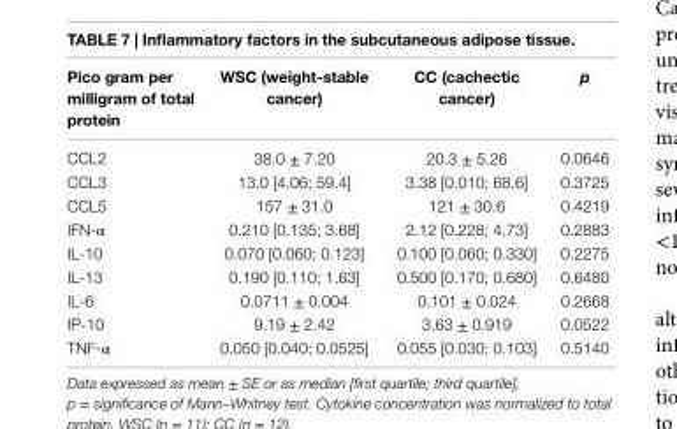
<table><thead><tr><td>Pico gram per milligram of total protein</td><td>Wsc (weight-stable cancer)</td><td>cc (cachectic cancer)</td><td>p</td></tr></thead><tbody><tr><td>CCL2</td><td>38.0 ± 7.20</td><td>20.3 ± 5.26</td><td>0.0646</td></tr><tr><td>CCL3</td><td>13.0 [4.06; 59.4]</td><td>3.38 [0.010; 68.6]</td><td>0.3725</td></tr><tr><td>CCL5</td><td>157 ± 31.0</td><td>121 ± 30.6</td><td>0.4219</td></tr><tr><td>IFN-α</td><td>0.210 [0.135; 3.68]</td><td>2.12 [0.228; 4.73]</td><td>0.2883</td></tr><tr><td>IL-10</td><td>0.070 [0.060; 0.123]</td><td>0.100 [0.060; 0.330]</td><td>0.2275</td></tr><tr><td>IL-13</td><td>0.190 [0.110; 1.63]</td><td>0.500 [0.170; 0.680]</td><td>0.6480</td></tr><tr><td>IL-6</td><td>0.0711 ± 0.004</td><td>0.101 ± 0.024</td><td>0.2668</td></tr><tr><td>IP-10</td><td>9.19 ± 2.42</td><td>3.63 ± 0.919</td><td>0.0522</td></tr><tr><td>TNF-α</td><td>0.050 [0.040; 0.0525]</td><td>0.055 [0.030; 0.103]</td><td>0.5140</td></tr></tbody></table>